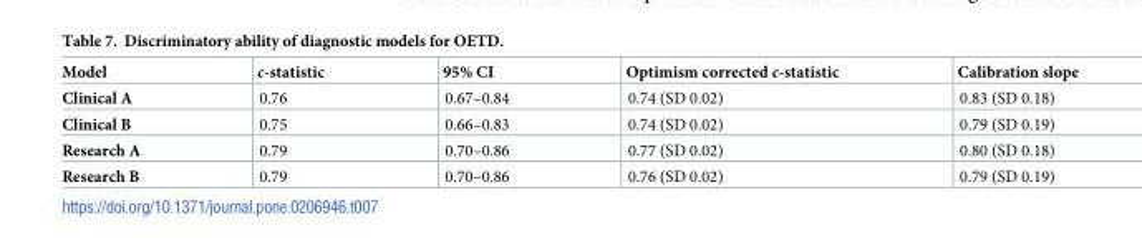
<table><thead><tr><td>Model</td><td>c-statistic</td><td>95% CI</td><td>Optimism corrected c-statistic</td><td>Calibration slope</td></tr></thead><tbody><tr><td>Clinical A</td><td>0.76</td><td>0.67–0.84</td><td>0.74 (SD 0.02)</td><td>0.83 (SD 0.18)</td></tr><tr><td>Clinical B</td><td>0.75</td><td>0.66–0.83</td><td>0.74 (SD 0.02)</td><td>0.79 (SD 0.19)</td></tr><tr><td>Research A</td><td>0.79</td><td>0.70–0.86</td><td>0.77 (SD 0.02)</td><td>0.80 (SD 0.18)</td></tr><tr><td>Research B</td><td>0.79</td><td>0.70–0.86</td><td>0.76 (SD 0.02)</td><td>0.79 (SD 0.19)</td></tr></tbody></table>